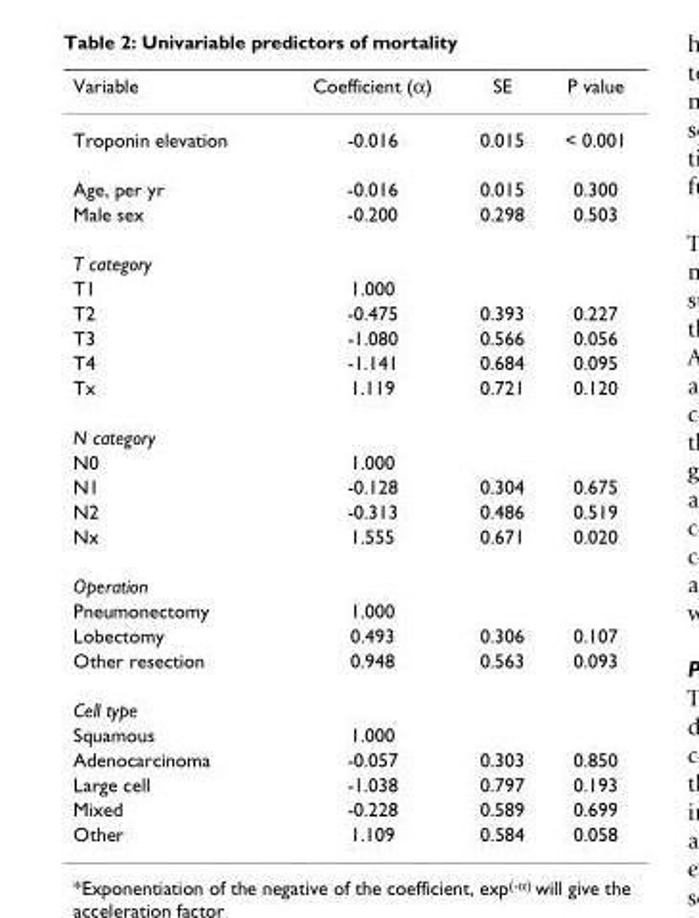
<table><thead><tr><td>Variable</td><td>Coefficient (α)</td><td>SE</td><td>P value</td></tr></thead><tbody><tr><td>Troponin elevation</td><td>-0.016</td><td>0.015</td><td>&lt; 0.001</td></tr><tr><td>Age, per yr</td><td>-0.016</td><td>0.015</td><td>0.300</td></tr><tr><td>Male sex</td><td>-0.200</td><td>0.298</td><td>0.503</td></tr><tr><td colspan="4">T category</td></tr><tr><td>T1</td><td>1.000</td><td></td><td></td></tr><tr><td>T2</td><td>-0.475</td><td>0.393</td><td>0.227</td></tr><tr><td>T3</td><td>-1.080</td><td>0.566</td><td>0.056</td></tr><tr><td>T4</td><td>-1.141</td><td>0.684</td><td>0.095</td></tr><tr><td>Tx</td><td>1.119</td><td>0.721</td><td>0.120</td></tr><tr><td colspan="4">N category</td></tr><tr><td>N0</td><td>1.000</td><td></td><td></td></tr><tr><td>N1</td><td>-0.128</td><td>0.304</td><td>0.675</td></tr><tr><td>N2</td><td>-0.313</td><td>0.486</td><td>0.519</td></tr><tr><td>Nx</td><td>1.555</td><td>0.671</td><td>0.020</td></tr><tr><td colspan="4">Operation</td></tr><tr><td>Pneumonectomy</td><td>1.000</td><td></td><td></td></tr><tr><td>Lobectomy</td><td>0.493</td><td>0.306</td><td>0.107</td></tr><tr><td>Other resection</td><td>0.948</td><td>0.563</td><td>0.093</td></tr><tr><td colspan="4">Cell type</td></tr><tr><td>Squamous</td><td>1.000</td><td></td><td></td></tr><tr><td>Adenocarcinoma</td><td>-0.057</td><td>0.303</td><td>0.850</td></tr><tr><td>Large cell</td><td>-1.038</td><td>0.797</td><td>0.193</td></tr><tr><td>Mixed</td><td>-0.228</td><td>0.589</td><td>0.699</td></tr><tr><td>Other</td><td>1.109</td><td>0.584</td><td>0.058</td></tr></tbody></table>